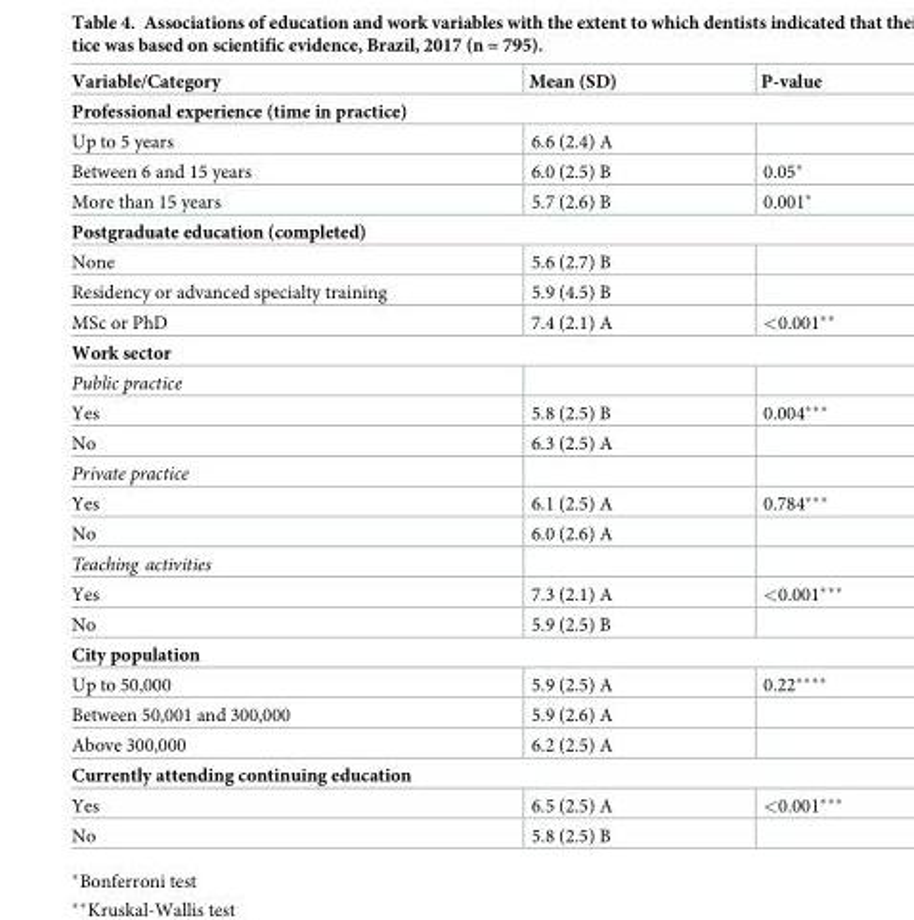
<table><thead><tr><td>Variable/Category</td><td>Mean (SD)</td><td>P-value</td></tr></thead><tbody><tr><td colspan="3">Professional experience (time in practice)</td></tr><tr><td>Up to 5 years</td><td>6.6 (2.4) A</td><td></td></tr><tr><td>Between 6 and 15 years</td><td>6.0 (2.5) B</td><td>0.05*</td></tr><tr><td>More than 15 years</td><td>5.7 (2.6) B</td><td>0.001*</td></tr><tr><td colspan="3">Postgraduate education (completed)</td></tr><tr><td>None</td><td>5.6 (2.7) B</td><td></td></tr><tr><td>Residency or advanced specialty training</td><td>5.9 (4.5) B</td><td></td></tr><tr><td>MSc or PhD</td><td>7.4 (2.1) A</td><td>&lt;0.001**</td></tr><tr><td colspan="3">Work sector</td></tr><tr><td colspan="3">Public practice</td></tr><tr><td>Yes</td><td>5.8 (2.5) B</td><td>0.004***</td></tr><tr><td>No</td><td>6.3 (2.5) A</td><td></td></tr><tr><td colspan="3">Private practice</td></tr><tr><td>Yes</td><td>6.1 (2.5) A</td><td>0.784***</td></tr><tr><td>No</td><td>6.0 (2.6) A</td><td></td></tr><tr><td colspan="3">Teaching activities</td></tr><tr><td>Yes</td><td>7.3 (2.1) A</td><td>&lt;0.001***</td></tr><tr><td>No</td><td>5.9 (2.5) B</td><td></td></tr><tr><td colspan="3">City population</td></tr><tr><td>Up to 50,000</td><td>5.9 (2.5) A</td><td>0.22****</td></tr><tr><td>Between 50,001 and 300,000</td><td>5.9 (2.6) A</td><td></td></tr><tr><td>Above 300,000</td><td>6.2 (2.5) A</td><td></td></tr><tr><td colspan="3">Currently attending continuing education</td></tr><tr><td>Yes</td><td>6.5 (2.5) A</td><td>&lt;0.001***</td></tr><tr><td>No</td><td>5.8 (2.5) B</td><td></td></tr></tbody></table>